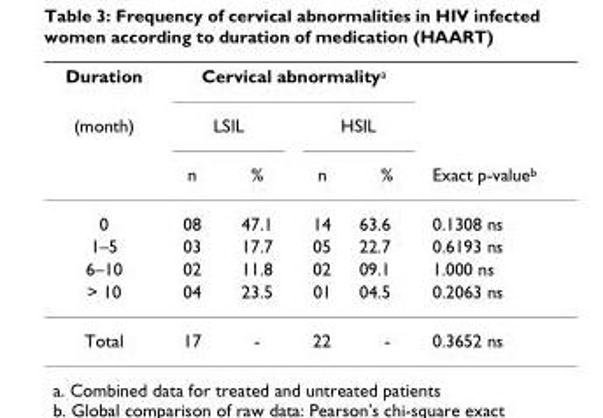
<table><thead><tr><td rowspan="3">Duration (month)</td><td colspan="4">Cervical abnormality<sup>a</sup></td><td rowspan="3">Exact p-value<sup>b</sup></td></tr><tr><td colspan="2">LSIL</td><td colspan="2">HSIL</td></tr><tr><td>n</td><td>%</td><td>n</td><td>%</td></tr></thead><tbody><tr><td>0</td><td>08</td><td>47.1</td><td>14</td><td>63.6</td><td>0.1308 ns</td></tr><tr><td>1–5</td><td>03</td><td>17.7</td><td>05</td><td>22.7</td><td>0.6193 ns</td></tr><tr><td>6–10</td><td>02</td><td>11.8</td><td>02</td><td>09.1</td><td>1.000 ns</td></tr><tr><td>&gt; 10</td><td>04</td><td>23.5</td><td>01</td><td>04.5</td><td>0.2063 ns</td></tr><tr><td>Total</td><td>17</td><td>-</td><td>22</td><td>-</td><td>0.3652 ns</td></tr></tbody></table>